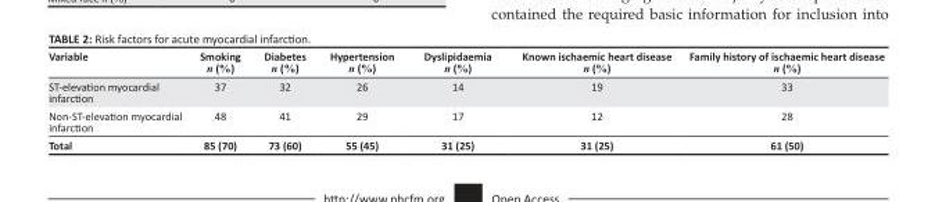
<table><thead><tr><td>Variable</td><td>Smoking n (%)</td><td>Diabetes n (%)</td><td>Hypertension n (%)</td><td>Dyslipidaemia n (%)</td><td>Known ischaemic heart disease n (%)</td><td>Family history of ischaemic heart disease n (%)</td></tr></thead><tbody><tr><td>ST-elevation myocardial infarction</td><td>37</td><td>32</td><td>26</td><td>14</td><td>19</td><td>33</td></tr><tr><td>Non-ST-elevation myocardial infarction</td><td>48</td><td>41</td><td>29</td><td>17</td><td>12</td><td>28</td></tr><tr><td>Total</td><td>85 (70)</td><td>73 (60)</td><td>55 (45)</td><td>31 (25)</td><td>31 (25)</td><td>61 (50)</td></tr></tbody></table>